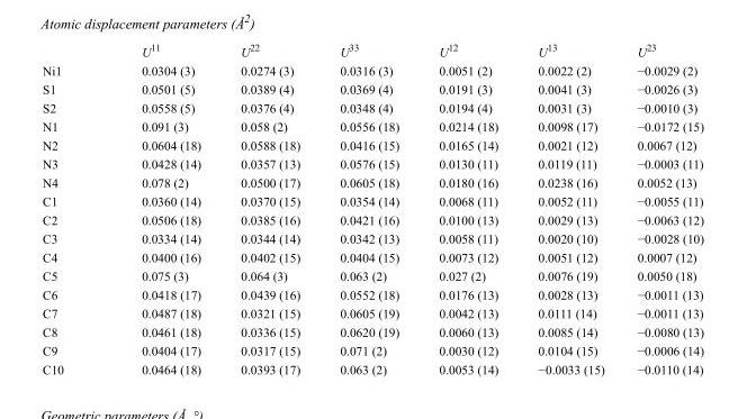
<table><thead><tr><td></td><td>U<sup>11</sup></td><td>U<sup>22</sup></td><td>U<sup>33</sup></td><td>U<sup>12</sup></td><td>U<sup>13</sup></td><td>U<sup>23</sup></td></tr></thead><tbody><tr><td>Ni1</td><td>0.0304 (3)</td><td>0.0274 (3)</td><td>0.0316 (3)</td><td>0.0051 (2)</td><td>0.0022 (2)</td><td>−0.0029 (2)</td></tr><tr><td>S1</td><td>0.0501 (5)</td><td>0.0389 (4)</td><td>0.0369 (4)</td><td>0.0191 (3)</td><td>0.0041 (3)</td><td>−0.0026 (3)</td></tr><tr><td>S2</td><td>0.0558 (5)</td><td>0.0376 (4)</td><td>0.0348 (4)</td><td>0.0194 (4)</td><td>0.0031 (3)</td><td>−0.0010 (3)</td></tr><tr><td>N1</td><td>0.091 (3)</td><td>0.058 (2)</td><td>0.0556 (18)</td><td>0.0214 (18)</td><td>0.0098 (17)</td><td>−0.0172 (15)</td></tr><tr><td>N2</td><td>0.0604 (18)</td><td>0.0588 (18)</td><td>0.0416 (15)</td><td>0.0165 (14)</td><td>0.0021 (12)</td><td>0.0067 (12)</td></tr><tr><td>N3</td><td>0.0428 (14)</td><td>0.0357 (13)</td><td>0.0576 (15)</td><td>0.0130 (11)</td><td>0.0119 (11)</td><td>−0.0003 (11)</td></tr><tr><td>N4</td><td>0.078 (2)</td><td>0.0500 (17)</td><td>0.0605 (18)</td><td>0.0180 (16)</td><td>0.0238 (16)</td><td>0.0052 (13)</td></tr><tr><td>C1</td><td>0.0360 (14)</td><td>0.0370 (15)</td><td>0.0354 (14)</td><td>0.0068 (11)</td><td>0.0052 (11)</td><td>−0.0055 (11)</td></tr><tr><td>C2</td><td>0.0506 (18)</td><td>0.0385 (16)</td><td>0.0421 (16)</td><td>0.0100 (13)</td><td>0.0029 (13)</td><td>−0.0063 (12)</td></tr><tr><td>C3</td><td>0.0334 (14)</td><td>0.0344 (14)</td><td>0.0342 (13)</td><td>0.0058 (11)</td><td>0.0020 (10)</td><td>−0.0028 (10)</td></tr><tr><td>C4</td><td>0.0400 (16)</td><td>0.0402 (15)</td><td>0.0404 (15)</td><td>0.0073 (12)</td><td>0.0051 (12)</td><td>0.0007 (12)</td></tr><tr><td>C5</td><td>0.075 (3)</td><td>0.064 (3)</td><td>0.063 (2)</td><td>0.027 (2)</td><td>0.0076 (19)</td><td>0.0050 (18)</td></tr><tr><td>C6</td><td>0.0418 (17)</td><td>0.0439 (16)</td><td>0.0552 (18)</td><td>0.0176 (13)</td><td>0.0028 (13)</td><td>−0.0011 (13)</td></tr><tr><td>C7</td><td>0.0487 (18)</td><td>0.0321 (15)</td><td>0.0605 (19)</td><td>0.0042 (13)</td><td>0.0111 (14)</td><td>−0.0011 (13)</td></tr><tr><td>C8</td><td>0.0461 (18)</td><td>0.0336 (15)</td><td>0.0620 (19)</td><td>0.0060 (13)</td><td>0.0085 (14)</td><td>−0.0080 (13)</td></tr><tr><td>C9</td><td>0.0404 (17)</td><td>0.0317 (15)</td><td>0.071 (2)</td><td>0.0030 (12)</td><td>0.0104 (15)</td><td>−0.0006 (14)</td></tr><tr><td>C10</td><td>0.0464 (18)</td><td>0.0393 (17)</td><td>0.063 (2)</td><td>0.0053 (14)</td><td>−0.0033 (15)</td><td>−0.0110 (14)</td></tr></tbody></table>